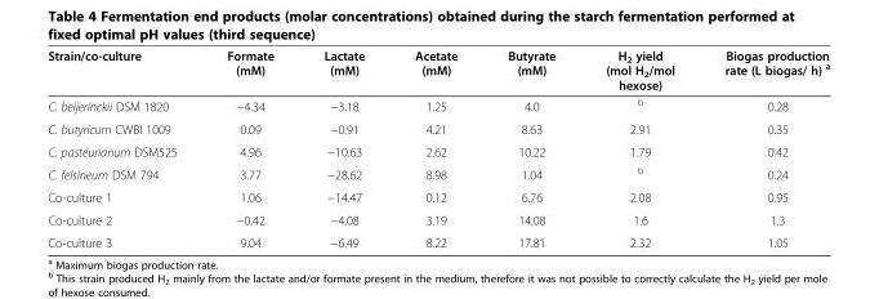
<table><thead><tr><td>Strain/co-culture</td><td>Formate (mM)</td><td>Lactate (mM)</td><td>Acetate (mM)</td><td>Butyrate (mM)</td><td>H<sub>2</sub> yield (mol H<sub>2</sub>/mol hexose)</td><td>Biogas production rate (L biogas/ h) <sup>a</sup></td></tr></thead><tbody><tr><td>C. beijerinckii DSM 1820</td><td>−4.34</td><td>−3.18</td><td>1.25</td><td>4.0</td><td><sup>b</sup></td><td>0.28</td></tr><tr><td>C. butyricum CWBI 1009</td><td>0.09</td><td>−0.91</td><td>4.21</td><td>8.63</td><td>2.91</td><td>0.35</td></tr><tr><td>C. pasteurianum DSM525</td><td>4.96</td><td>−10.63</td><td>2.62</td><td>10.22</td><td>1.79</td><td>0.42</td></tr><tr><td>C. felsineum DSM 794</td><td>3.77</td><td>−28.62</td><td>8.98</td><td>1.04</td><td><sup>b</sup></td><td>0.24</td></tr><tr><td>Co-culture 1</td><td>1.06</td><td>−14.47</td><td>0.12</td><td>6.76</td><td>2.08</td><td>0.95</td></tr><tr><td>Co-culture 2</td><td>−0.42</td><td>−4.08</td><td>3.19</td><td>14.08</td><td>1.6</td><td>1.3</td></tr><tr><td>Co-culture 3</td><td>9.04</td><td>−6.49</td><td>8.22</td><td>17.81</td><td>2.32</td><td>1.05</td></tr></tbody></table>